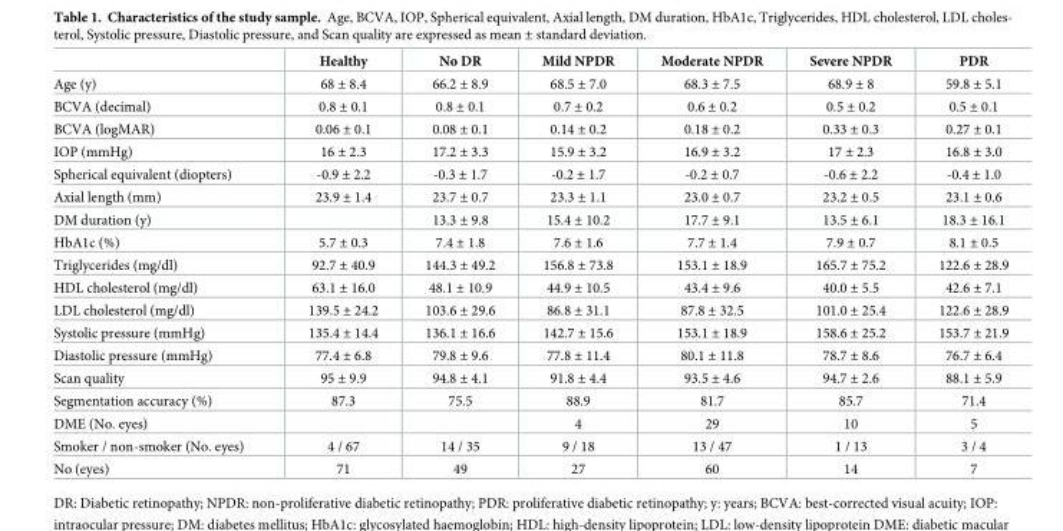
<table><thead><tr><td></td><td>Healthy</td><td>No DR</td><td>Mild NPDR</td><td>Moderate NPDR</td><td>Severe NPDR</td><td>PDR</td></tr></thead><tbody><tr><td>Age (y)</td><td>68 ± 8.4</td><td>66.2 ± 8.9</td><td>68.5 ± 7.0</td><td>68.3 ± 7.5</td><td>68.9 ± 8</td><td>59.8 ± 5.1</td></tr><tr><td>BCVA (decimal)</td><td>0.8 ± 0.1</td><td>0.8 ± 0.1</td><td>0.7 ± 0.2</td><td>0.6 ± 0.2</td><td>0.5 ± 0.2</td><td>0.5 ± 0.1</td></tr><tr><td>BCVA (logMAR)</td><td>0.06 ± 0.1</td><td>0.08 ± 0.1</td><td>0.14 ± 0.2</td><td>0.18 ± 0.2</td><td>0.33 ± 0.3</td><td>0.27 ± 0.1</td></tr><tr><td>IOP (mmHg)</td><td>16 ± 2.3</td><td>17.2 ± 3.3</td><td>15.9 ± 3.2</td><td>16.9 ± 3.2</td><td>17 ± 2.3</td><td>16.8 ± 3.0</td></tr><tr><td>Spherical equivalent (diopters)</td><td>-0.9 ± 2.2</td><td>-0.3 ± 1.7</td><td>-0.2 ± 1.7</td><td>-0.2 ± 0.7</td><td>-0.6 ± 2.2</td><td>-0.4 ± 1.0</td></tr><tr><td>Axial length (mm)</td><td>23.9 ± 1.4</td><td>23.7 ± 0.7</td><td>23.3 ± 1.1</td><td>23.0 ± 0.7</td><td>23.2 ± 0.5</td><td>23.1 ± 0.6</td></tr><tr><td>DM duration (y)</td><td></td><td>13.3 ± 9.8</td><td>15.4 ± 10.2</td><td>17.7 ± 9.1</td><td>13.5 ± 6.1</td><td>18.3 ± 16.1</td></tr><tr><td>HbA1c (%)</td><td>5.7 ± 0.3</td><td>7.4 ± 1.8</td><td>7.6 ± 1.6</td><td>7.7 ± 1.4</td><td>7.9 ± 0.7</td><td>8.1 ± 0.5</td></tr><tr><td>Triglycerides (mg/dl)</td><td>92.7 ± 40.9</td><td>144.3 ± 49.2</td><td>156.8 ± 73.8</td><td>153.1 ± 18.9</td><td>165.7 ± 75.2</td><td>122.6 ± 28.9</td></tr><tr><td>HDL cholesterol (mg/dl)</td><td>63.1 ± 16.0</td><td>48.1 ± 10.9</td><td>44.9 ± 10.5</td><td>43.4 ± 9.6</td><td>40.0 ± 5.5</td><td>42.6 ± 7.1</td></tr><tr><td>LDL cholesterol (mg/dl)</td><td>139.5 ± 24.2</td><td>103.6 ± 29.6</td><td>86.8 ± 31.1</td><td>87.8 ± 32.5</td><td>101.0 ± 25.4</td><td>122.6 ± 28.9</td></tr><tr><td>Systolic pressure (mmHg)</td><td>135.4 ± 14.4</td><td>136.1 ± 16.6</td><td>142.7 ± 15.6</td><td>153.1 ± 18.9</td><td>158.6 ± 25.2</td><td>153.7 ± 21.9</td></tr><tr><td>Diastolic pressure (mmHg)</td><td>77.4 ± 6.8</td><td>79.8 ± 9.6</td><td>77.8 ± 11.4</td><td>80.1 ± 11.8</td><td>78.7 ± 8.6</td><td>76.7 ± 6.4</td></tr><tr><td>Scan quality</td><td>95 ± 9.9</td><td>94.8 ± 4.1</td><td>91.8 ± 4.4</td><td>93.5 ± 4.6</td><td>94.7 ± 2.6</td><td>88.1 ± 5.9</td></tr><tr><td>Segmentation accuracy (%)</td><td>87.3</td><td>75.5</td><td>88.9</td><td>81.7</td><td>85.7</td><td>71.4</td></tr><tr><td>DME (No. eyes)</td><td></td><td></td><td>4</td><td>29</td><td>10</td><td>5</td></tr><tr><td>Smoker / non-smoker (No. eyes)</td><td>4 / 67</td><td>14 / 35</td><td>9 / 18</td><td>13 / 47</td><td>1 / 13</td><td>3 / 4</td></tr><tr><td>No (eyes)</td><td>71</td><td>49</td><td>27</td><td>60</td><td>14</td><td>7</td></tr></tbody></table>